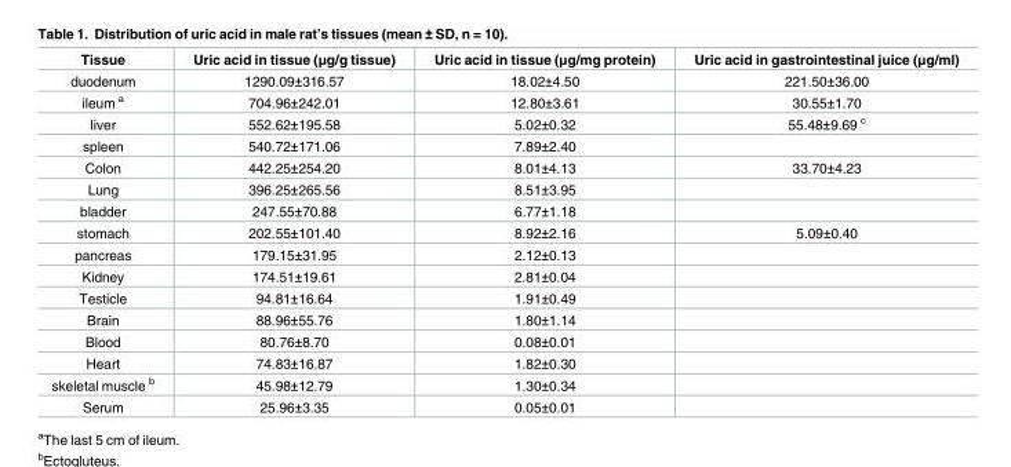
<table><thead><tr><td>Tissue</td><td>Uric acid in tissue (μg/g tissue)</td><td>Uric acid in tissue (μg/mg protein)</td><td>Uric acid in gastrointestinal juice (μg/ml)</td></tr></thead><tbody><tr><td>duodenum</td><td>1290.09±316.57</td><td>18.02±4.50</td><td>221.50±36.00</td></tr><tr><td>ileum <sup>a</sup></td><td>704.96±242.01</td><td>12.80±3.61</td><td>30.55±1.70</td></tr><tr><td>liver</td><td>552.62±195.58</td><td>5.02±0.32</td><td>55.48±9.69 <sup>c</sup></td></tr><tr><td>spleen</td><td>540.72±171.06</td><td>7.89±2.40</td><td></td></tr><tr><td>Colon</td><td>442.25±254.20</td><td>8.01±4.13</td><td>33.70±4.23</td></tr><tr><td>Lung</td><td>396.25±265.56</td><td>8.51±3.95</td><td></td></tr><tr><td>bladder</td><td>247.55±70.88</td><td>6.77±1.18</td><td></td></tr><tr><td>stomach</td><td>202.55±101.40</td><td>8.92±2.16</td><td>5.09±0.40</td></tr><tr><td>pancreas</td><td>179.15±31.95</td><td>2.12±0.13</td><td></td></tr><tr><td>Kidney</td><td>174.51±19.61</td><td>2.81±0.04</td><td></td></tr><tr><td>Testicle</td><td>94.81±16.64</td><td>1.91±0.49</td><td></td></tr><tr><td>Brain</td><td>88.96±55.76</td><td>1.80±1.14</td><td></td></tr><tr><td>Blood</td><td>80.76±8.70</td><td>0.08±0.01</td><td></td></tr><tr><td>Heart</td><td>74.83±16.87</td><td>1.82±0.30</td><td></td></tr><tr><td>skeletal muscle <sup>b</sup></td><td>45.98±12.79</td><td>1.30±0.34</td><td></td></tr><tr><td>Serum</td><td>25.96±3.35</td><td>0.05±0.01</td><td></td></tr></tbody></table>